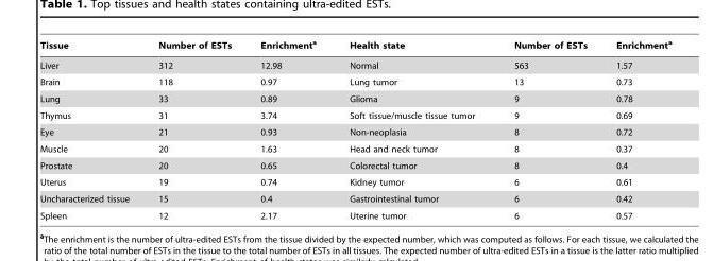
<table><thead><tr><td>Tissue</td><td>Number of ESTs</td><td>Enrichment<sup>a</sup></td><td>Health state</td><td>Number of ESTs</td><td>Enrichment<sup>a</sup></td></tr></thead><tbody><tr><td>Liver</td><td>312</td><td>12.98</td><td>Normal</td><td>563</td><td>1.57</td></tr><tr><td>Brain</td><td>118</td><td>0.97</td><td>Lung tumor</td><td>13</td><td>0.73</td></tr><tr><td>Lung</td><td>33</td><td>0.89</td><td>Glioma</td><td>9</td><td>0.78</td></tr><tr><td>Thymus</td><td>31</td><td>3.74</td><td>Soft tissue/muscle tissue tumor</td><td>9</td><td>0.69</td></tr><tr><td>Eye</td><td>21</td><td>0.93</td><td>Non-neoplasia</td><td>8</td><td>0.72</td></tr><tr><td>Muscle</td><td>20</td><td>1.63</td><td>Head and neck tumor</td><td>8</td><td>0.37</td></tr><tr><td>Prostate</td><td>20</td><td>0.65</td><td>Colorectal tumor</td><td>8</td><td>0.4</td></tr><tr><td>Uterus</td><td>19</td><td>0.74</td><td>Kidney tumor</td><td>6</td><td>0.61</td></tr><tr><td>Uncharacterized tissue</td><td>15</td><td>0.4</td><td>Gastrointestinal tumor</td><td>6</td><td>0.42</td></tr><tr><td>Spleen</td><td>12</td><td>2.17</td><td>Uterine tumor</td><td>6</td><td>0.57</td></tr></tbody></table>